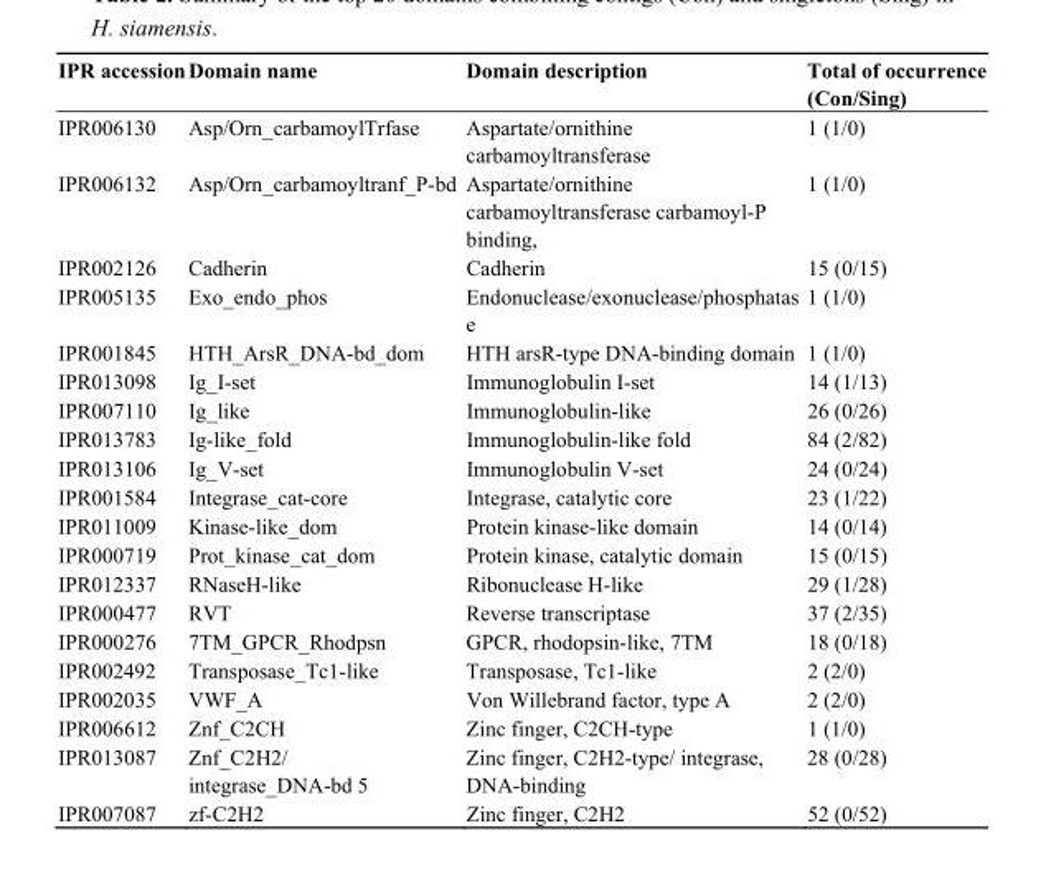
<table><thead><tr><td>IPR accession</td><td>Domain name</td><td>Domain description</td><td>Total of occurrence (Con/Sing)</td></tr></thead><tbody><tr><td>IPR006130</td><td>Asp/Orn_carbamoylTrfase</td><td>Aspartate/ornithine carbamoyltransferase</td><td>1 (1/0)</td></tr><tr><td>IPR006132</td><td>Asp/Orn_carbamoyltranf_P-bd</td><td>Aspartate/ornithine carbamoyltransferase carbamoyl-P binding,</td><td>1 (1/0)</td></tr><tr><td>IPR002126</td><td>Cadherin</td><td>Cadherin</td><td>15 (0/15)</td></tr><tr><td>IPR005135</td><td>Exo_endo_phos</td><td>Endonuclease/exonuclease/phosphatas e</td><td>1 (1/0)</td></tr><tr><td>IPR001845</td><td>HTH_ArsR_DNA-bd_dom</td><td>HTH arsR-type DNA-binding domain</td><td>1 (1/0)</td></tr><tr><td>IPR013098</td><td>Ig_I-set</td><td>Immunoglobulin I-set</td><td>14 (1/13)</td></tr><tr><td>IPR007110</td><td>Ig_like</td><td>Immunoglobulin-like</td><td>26 (0/26)</td></tr><tr><td>IPR013783</td><td>Ig-like_fold</td><td>Immunoglobulin-like fold</td><td>84 (2/82)</td></tr><tr><td>IPR013106</td><td>Ig_V-set</td><td>Immunoglobulin V-set</td><td>24 (0/24)</td></tr><tr><td>IPR001584</td><td>Integrase_cat-core</td><td>Integrase, catalytic core</td><td>23 (1/22)</td></tr><tr><td>IPR011009</td><td>Kinase-like_dom</td><td>Protein kinase-like domain</td><td>14 (0/14)</td></tr><tr><td>IPR000719</td><td>Prot_kinase_cat_dom</td><td>Protein kinase, catalytic domain</td><td>15 (0/15)</td></tr><tr><td>IPR012337</td><td>RNaseH-like</td><td>Ribonuclease H-like</td><td>29 (1/28)</td></tr><tr><td>IPR000477</td><td>RVT</td><td>Reverse transcriptase</td><td>37 (2/35)</td></tr><tr><td>IPR000276</td><td>7TM_GPCR_Rhodpsn</td><td>GPCR, rhodopsin-like, 7TM</td><td>18 (0/18)</td></tr><tr><td>IPR002492</td><td>Transposase_Tc1-like</td><td>Transposase, Tc1-like</td><td>2 (2/0)</td></tr><tr><td>IPR002035</td><td>VWF_A</td><td>Von Willebrand factor, type A</td><td>2 (2/0)</td></tr><tr><td>IPR006612</td><td>Znf_C2CH</td><td>Zinc finger, C2CH-type</td><td>1 (1/0)</td></tr><tr><td>IPR013087</td><td>Znf_C2H2/ integrase_DNA-bd 5</td><td>Zinc finger, C2H2-type/ integrase, DNA-binding</td><td>28 (0/28)</td></tr><tr><td>IPR007087</td><td>zf-C2H2</td><td>Zinc finger, C2H2</td><td>52 (0/52)</td></tr></tbody></table>